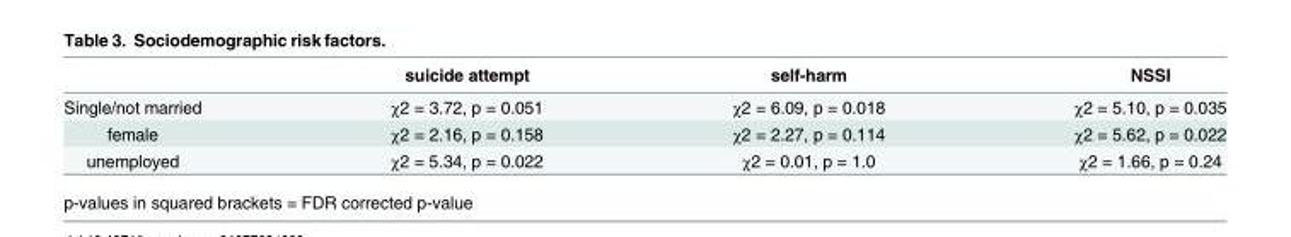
<table><thead><tr><td></td><td>suicide attempt</td><td>self-harm</td><td>NSSI</td></tr></thead><tbody><tr><td>Single/not married</td><td>χ2 = 3.72, p = 0.051</td><td>χ2 = 6.09, p = 0.018</td><td>χ2 = 5.10, p = 0.035</td></tr><tr><td>female</td><td>χ2 = 2.16, p = 0.158</td><td>χ2 = 2.27, p = 0.114</td><td>χ2 = 5.62, p = 0.022</td></tr><tr><td>unemployed</td><td>χ2 = 5.34, p = 0.022</td><td>χ2 = 0.01, p = 1.0</td><td>χ2 = 1.66, p = 0.24</td></tr></tbody></table>